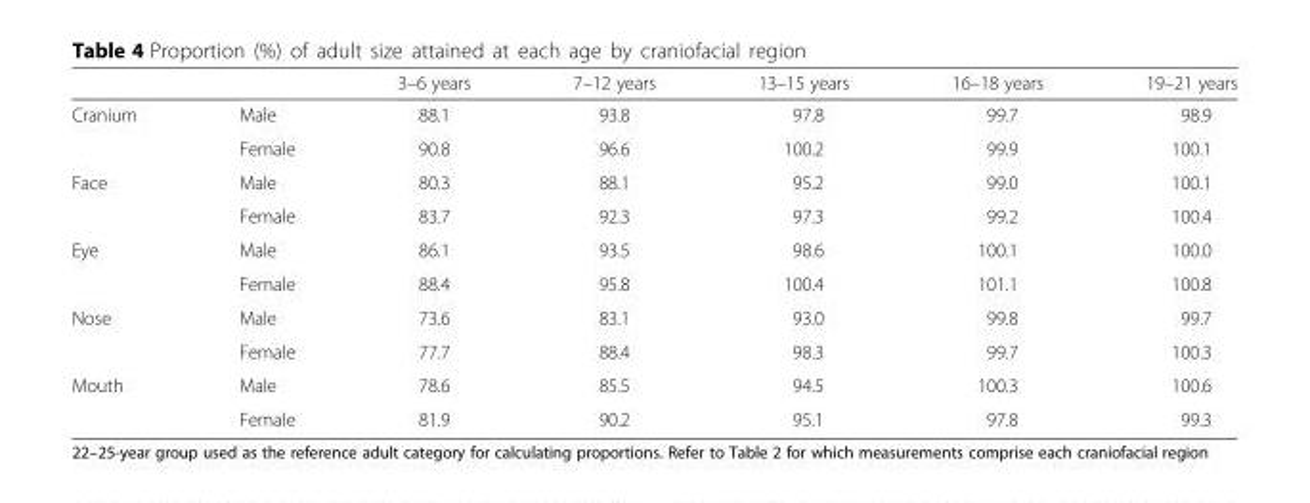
<table><thead><tr><td></td><td></td><td>3–6 years</td><td>7–12 years</td><td>13–15 years</td><td>16–18 years</td><td>19–21 years</td></tr></thead><tbody><tr><td rowspan="2">Cranium</td><td>Male</td><td>88.1</td><td>93.8</td><td>97.8</td><td>99.7</td><td>98.9</td></tr><tr><td>Female</td><td>90.8</td><td>96.6</td><td>100.2</td><td>99.9</td><td>100.1</td></tr><tr><td rowspan="2">Face</td><td>Male</td><td>80.3</td><td>88.1</td><td>95.2</td><td>99.0</td><td>100.1</td></tr><tr><td>Female</td><td>83.7</td><td>92.3</td><td>97.3</td><td>99.2</td><td>100.4</td></tr><tr><td rowspan="2">Eye</td><td>Male</td><td>86.1</td><td>93.5</td><td>98.6</td><td>100.1</td><td>100.0</td></tr><tr><td>Female</td><td>88.4</td><td>95.8</td><td>100.4</td><td>101.1</td><td>100.8</td></tr><tr><td rowspan="2">Nose</td><td>Male</td><td>73.6</td><td>83.1</td><td>93.0</td><td>99.8</td><td>99.7</td></tr><tr><td>Female</td><td>77.7</td><td>88.4</td><td>98.3</td><td>99.7</td><td>100.3</td></tr><tr><td rowspan="2">Mouth</td><td>Male</td><td>78.6</td><td>85.5</td><td>94.5</td><td>100.3</td><td>100.6</td></tr><tr><td>Female</td><td>81.9</td><td>90.2</td><td>95.1</td><td>97.8</td><td>99.3</td></tr></tbody></table>